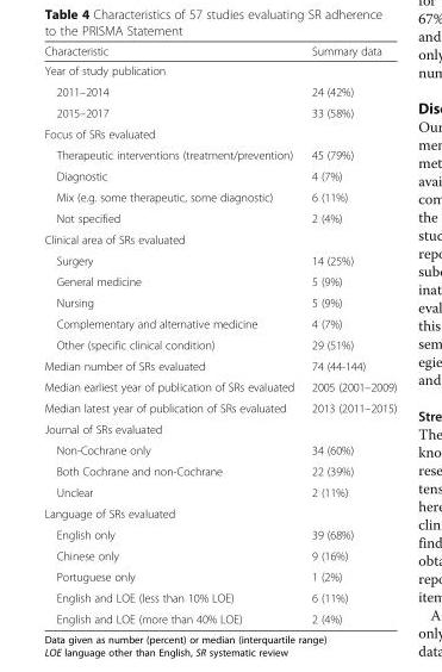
<table><thead><tr><td>Characteristic</td><td>Summary data</td></tr></thead><tbody><tr><td colspan="2">Year of study publication</td></tr><tr><td>2011–2014</td><td>24 (42%)</td></tr><tr><td>2015–2017</td><td>33 (58%)</td></tr><tr><td colspan="2">Focus of SRs evaluated</td></tr><tr><td>Therapeutic interventions (treatment/prevention)</td><td>45 (79%)</td></tr><tr><td>Diagnostic</td><td>4 (7%)</td></tr><tr><td>Mix (e.g. some therapeutic, some diagnostic)</td><td>6 (11%)</td></tr><tr><td>Not specified</td><td>2 (4%)</td></tr><tr><td colspan="2">Clinical area of SRs evaluated</td></tr><tr><td>Surgery</td><td>14 (25%)</td></tr><tr><td>General medicine</td><td>5 (9%)</td></tr><tr><td>Nursing</td><td>5 (9%)</td></tr><tr><td>Complementary and alternative medicine</td><td>4 (7%)</td></tr><tr><td>Other (specific clinical condition)</td><td>29 (51%)</td></tr><tr><td>Median number of SRs evaluated</td><td>74 (44-144)</td></tr><tr><td>Median earliest year of publication of SRs evaluated</td><td>2005 (2001–2009)</td></tr><tr><td>Median latest year of publication of SRs evaluated</td><td>2013 (2011–2015)</td></tr><tr><td colspan="2">Journal of SRs evaluated</td></tr><tr><td>Non-Cochrane only</td><td>34 (60%)</td></tr><tr><td>Both Cochrane and non-Cochrane</td><td>22 (39%)</td></tr><tr><td>Unclear</td><td>2 (11%)</td></tr><tr><td colspan="2">Language of SRs evaluated</td></tr><tr><td>English only</td><td>39 (68%)</td></tr><tr><td>Chinese only</td><td>9 (16%)</td></tr><tr><td>Portuguese only</td><td>1 (2%)</td></tr><tr><td>English and LOE (less than 10% LOE)</td><td>6 (11%)</td></tr><tr><td>English and LOE (more than 40% LOE)</td><td>2 (4%)</td></tr></tbody></table>